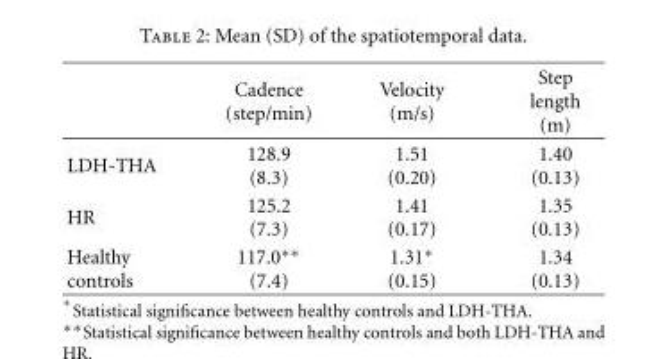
<table><thead><tr><td></td><td>Cadence (step/min)</td><td>Velocity (m/s)</td><td>Step length (m)</td></tr></thead><tbody><tr><td>LDH-THA</td><td>128.9 (8.3)</td><td>1.51 (0.20)</td><td>1.40 (0.13)</td></tr><tr><td>HR</td><td>125.2 (7.3)</td><td>1.41 (0.17)</td><td>1.35 (0.13)</td></tr><tr><td>Healthy controls</td><td>117.0∗∗ (7.4)</td><td>1.31∗ (0.15)</td><td>1.34 (0.13)</td></tr></tbody></table>